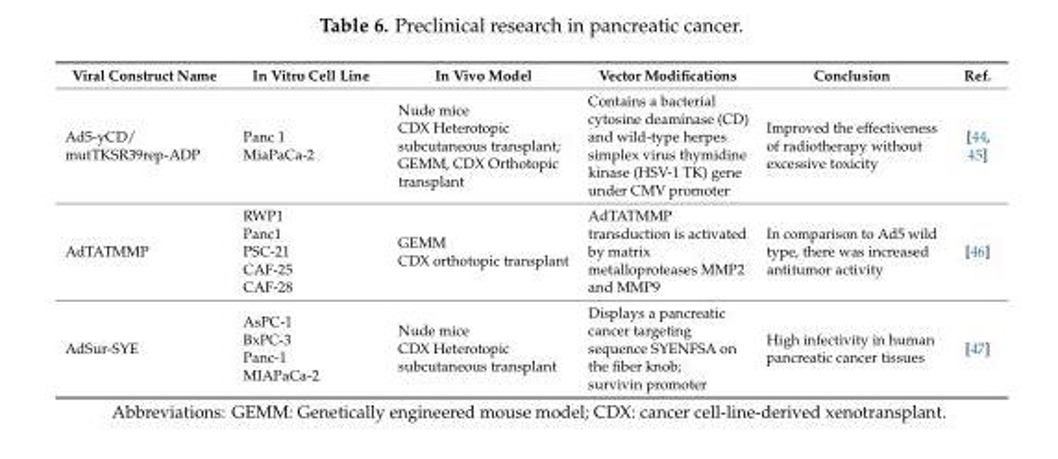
<table><thead><tr><td>Viral Construct Name</td><td>In Vitro Cell Line</td><td>In Vivo Model</td><td>Vector Modifications</td><td>Conclusion</td><td>Ref.</td></tr></thead><tbody><tr><td>Ad5-yCD/ mutTKSR39rep-ADP</td><td>Panc 1 MiaPaCa-2</td><td>Nude mice CDX Heterotopic subcutaneous transplant; GEMM, CDX Orthotopic transplant</td><td>Contains a bacterial cytosine deaminase (CD) and wild-type herpes simplex virus thymidine kinase (HSV-1 TK) gene under CMV promoter</td><td>Improved the effectiveness of radiotherapy without excessive toxicity</td><td>[44, 45]</td></tr><tr><td>AdTATMMP</td><td>RWP1 Panc1 PSC-21 CAF-25 CAF-28</td><td>GEMM CDX orthotopic transplant</td><td>AdTATMMP transduction is activated by matrix metalloproteases MMP2 and MMP9</td><td>In comparison to Ad5 wild type, there was increased antitumor activity</td><td>[46]</td></tr><tr><td>AdSur-SYE</td><td>AsPC-1 BxPC-3 Panc-1 MIAPaCa-2</td><td>Nude mice CDX Heterotopic subcutaneous transplant</td><td>Displays a pancreatic cancer targeting sequence SYENFSA on the fiber knob; survivin promoter</td><td>High infectivity in human pancreatic cancer tissues</td><td>[47]</td></tr></tbody></table>